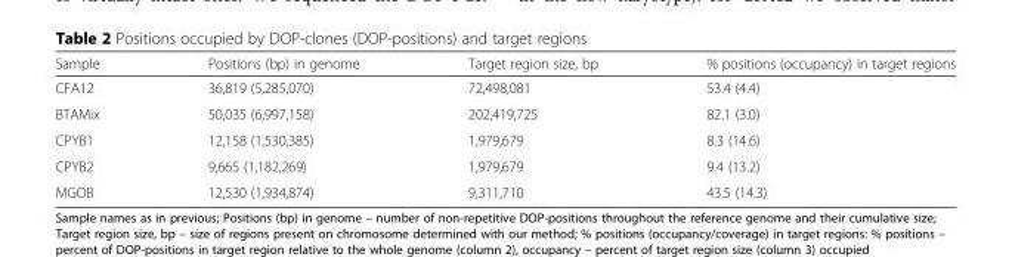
<table><thead><tr><td>Sample</td><td>Positions (bp) in genome</td><td>Target region size, bp</td><td>% positions (occupancy) in target regions</td></tr></thead><tbody><tr><td>CFA12</td><td>36,819 (5,285,070)</td><td>72,498,081</td><td>53.4 (4.4)</td></tr><tr><td>BTAMix</td><td>50,035 (6,997,158)</td><td>202,419,725</td><td>82.1 (3.0)</td></tr><tr><td>CPYB1</td><td>12,158 (1,530,385)</td><td>1,979,679</td><td>8.3 (14.6)</td></tr><tr><td>CPYB2</td><td>9,665 (1,182,269)</td><td>1,979,679</td><td>9.4 (13.2)</td></tr><tr><td>MGOB</td><td>12,530 (1,934,874)</td><td>9,311,710</td><td>43.5 (14.3)</td></tr></tbody></table>